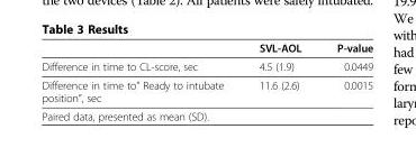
<table><thead><tr><td></td><td>SVL-AOL</td><td>P-value</td></tr></thead><tbody><tr><td>Difference in time to CL-score, sec</td><td>4.5 (1.9)</td><td>0.0449</td></tr><tr><td>Difference in time to” Ready to intubate position”, sec</td><td>11.6 (2.6)</td><td>0.0015</td></tr><tr><td>Paired data, presented as mean (SD).</td><td></td><td></td></tr></tbody></table>